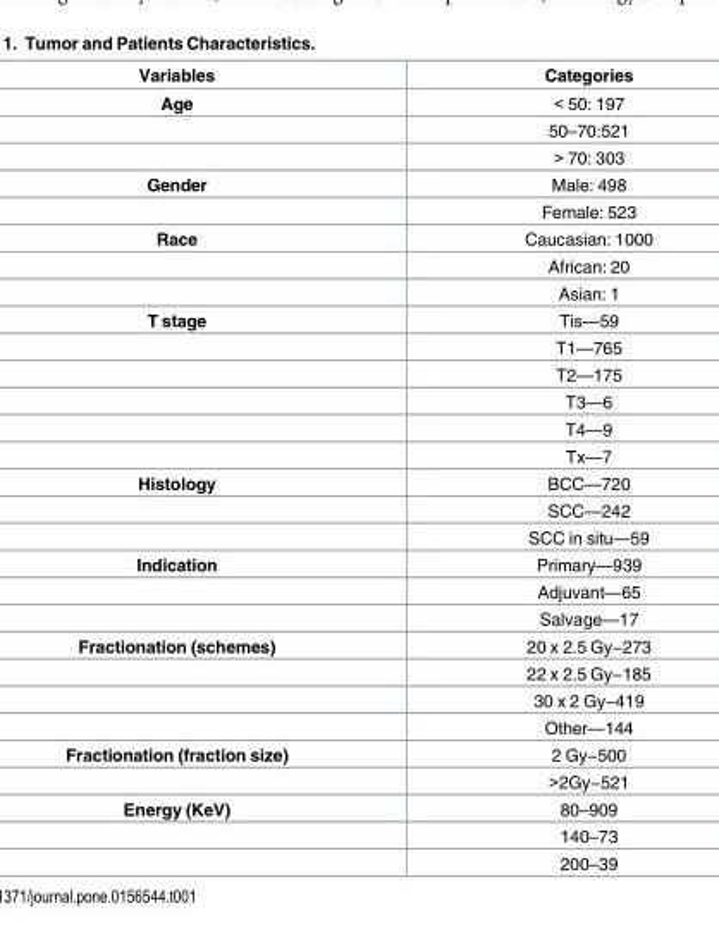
<table><thead><tr><td>Variables</td><td>Categories</td></tr></thead><tbody><tr><td rowspan="3">Age</td><td>&lt; 50: 197</td></tr><tr><td>50–70:521</td></tr><tr><td>&gt; 70: 303</td></tr><tr><td rowspan="2">Gender</td><td>Male: 498</td></tr><tr><td>Female: 523</td></tr><tr><td rowspan="3">Race</td><td>Caucasian: 1000</td></tr><tr><td>African: 20</td></tr><tr><td>Asian: 1</td></tr><tr><td rowspan="6">T stage</td><td>Tis—59</td></tr><tr><td>T1—765</td></tr><tr><td>T2—175</td></tr><tr><td>T3—6</td></tr><tr><td>T4—9</td></tr><tr><td>Tx—7</td></tr><tr><td rowspan="3">Histology</td><td>BCC—720</td></tr><tr><td>SCC—242</td></tr><tr><td>SCC in situ—59</td></tr><tr><td rowspan="3">Indication</td><td>Primary—939</td></tr><tr><td>Adjuvant—65</td></tr><tr><td>Salvage—17</td></tr><tr><td rowspan="4">Fractionation (schemes)</td><td>20 x 2.5 Gy−273</td></tr><tr><td>22 x 2.5 Gy−185</td></tr><tr><td>30 x 2 Gy−419</td></tr><tr><td>Other—144</td></tr><tr><td rowspan="2">Fractionation (fraction size)</td><td>2 Gy−500</td></tr><tr><td>&gt;2Gy−521</td></tr><tr><td rowspan="3">Energy (KeV)</td><td>80–909</td></tr><tr><td>140–73</td></tr><tr><td>200–39</td></tr></tbody></table>